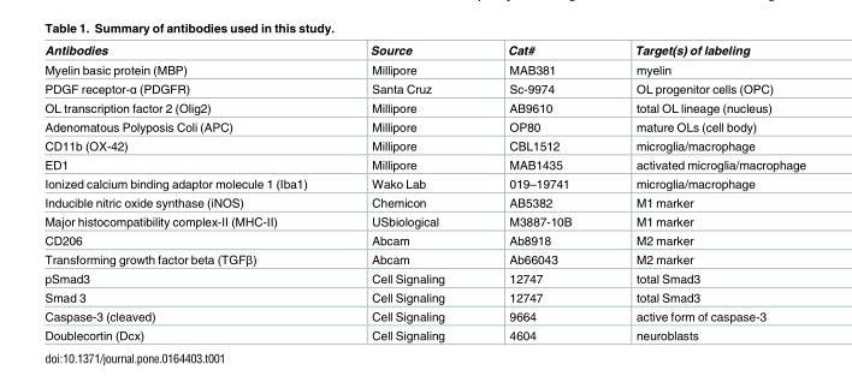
<table><thead><tr><td>Antibodies</td><td>Source</td><td>Cat#</td><td>Target(s) of labeling</td></tr></thead><tbody><tr><td>Myelin basic protein (MBP)</td><td>Millipore</td><td>MAB381</td><td>myelin</td></tr><tr><td>PDGF receptor-α (PDGFR)</td><td>Santa Cruz</td><td>Sc-9974</td><td>OL progenitor cells (OPC)</td></tr><tr><td>OL transcription factor 2 (Olig2)</td><td>Millipore</td><td>AB9610</td><td>total OL lineage (nucleus)</td></tr><tr><td>Adenomatous Polyposis Coli (APC)</td><td>Millipore</td><td>OP80</td><td>mature OLs (cell body)</td></tr><tr><td>CD11b (OX-42)</td><td>Millipore</td><td>CBL1512</td><td>microglia/macrophage</td></tr><tr><td>ED1</td><td>Millipore</td><td>MAB1435</td><td>activated microglia/macrophage</td></tr><tr><td>Ionized calcium binding adaptor molecule 1 (Iba1)</td><td>Wako Lab</td><td>019–19741</td><td>microglia/macrophage</td></tr><tr><td>Inducible nitric oxide synthase (iNOS)</td><td>Chemicon</td><td>AB5382</td><td>M1 marker</td></tr><tr><td>Major histocompatibility complex-II (MHC-II)</td><td>USbiological</td><td>M3887-10B</td><td>M1 marker</td></tr><tr><td>CD206</td><td>Abcam</td><td>Ab8918</td><td>M2 marker</td></tr><tr><td>Transforming growth factor beta (TGFβ)</td><td>Abcam</td><td>Ab66043</td><td>M2 marker</td></tr><tr><td>pSmad3</td><td>Cell Signaling</td><td>12747</td><td>total Smad3</td></tr><tr><td>Smad 3</td><td>Cell Signaling</td><td>12747</td><td>total Smad3</td></tr><tr><td>Caspase-3 (cleaved)</td><td>Cell Signaling</td><td>9664</td><td>active form of caspase-3</td></tr><tr><td>Doublecortin (Dcx)</td><td>Cell Signaling</td><td>4604</td><td>neuroblasts</td></tr></tbody></table>